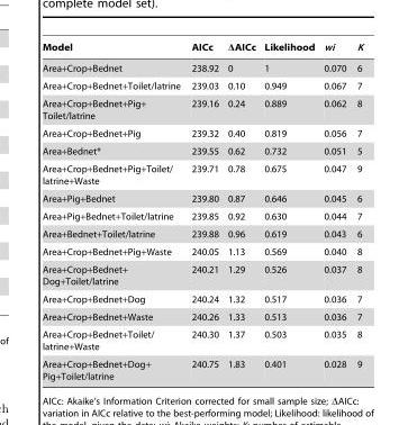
<table><thead><tr><td>Model</td><td>AICc</td><td>ΔAICc</td><td>Likelihood</td><td>wi</td><td>K</td></tr></thead><tbody><tr><td>Area+Crop+Bednet</td><td>238.92</td><td>0</td><td>1</td><td>0.070</td><td>6</td></tr><tr><td>Area+Crop+Bednet+Toilet/latrine</td><td>239.03</td><td>0.10</td><td>0.949</td><td>0.067</td><td>7</td></tr><tr><td>Area+Crop+Bednet+Pig+ Toilet/latrine</td><td>239.16</td><td>0.24</td><td>0.889</td><td>0.062</td><td>8</td></tr><tr><td>Area+Crop+Bednet+Pig</td><td>239.32</td><td>0.40</td><td>0.819</td><td>0.056</td><td>7</td></tr><tr><td>Area+Bednet*</td><td>239.55</td><td>0.62</td><td>0.732</td><td>0.051</td><td>5</td></tr><tr><td>Area+Crop+Bednet+Pig+Toilet/ latrine+Waste</td><td>239.71</td><td>0.78</td><td>0.675</td><td>0.047</td><td>9</td></tr><tr><td>Area+Pig+Bednet</td><td>239.80</td><td>0.87</td><td>0.646</td><td>0.045</td><td>6</td></tr><tr><td>Area+Pig+Bednet+Toilet/latrine</td><td>239.85</td><td>0.92</td><td>0.630</td><td>0.044</td><td>7</td></tr><tr><td>Area+Bednet+Toilet/latrine</td><td>239.88</td><td>0.96</td><td>0.619</td><td>0.043</td><td>6</td></tr><tr><td>Area+Crop+Bednet+Pig+Waste</td><td>240.05</td><td>1.13</td><td>0.569</td><td>0.040</td><td>8</td></tr><tr><td>Area+Crop+Bednet+ Dog+Toilet/latrine</td><td>240.21</td><td>1.29</td><td>0.526</td><td>0.037</td><td>8</td></tr><tr><td>Area+Crop+Bednet+Dog</td><td>240.24</td><td>1.32</td><td>0.517</td><td>0.036</td><td>7</td></tr><tr><td>Area+Crop+Bednet+Waste</td><td>240.26</td><td>1.33</td><td>0.513</td><td>0.036</td><td>7</td></tr><tr><td>Area+Crop+Bednet+Toilet/ latrine+Waste</td><td>240.30</td><td>1.37</td><td>0.503</td><td>0.035</td><td>8</td></tr><tr><td>Area+Crop+Bednet+Dog+ Pig+Toilet/latrine</td><td>240.75</td><td>1.83</td><td>0.401</td><td>0.028</td><td>9</td></tr></tbody></table>